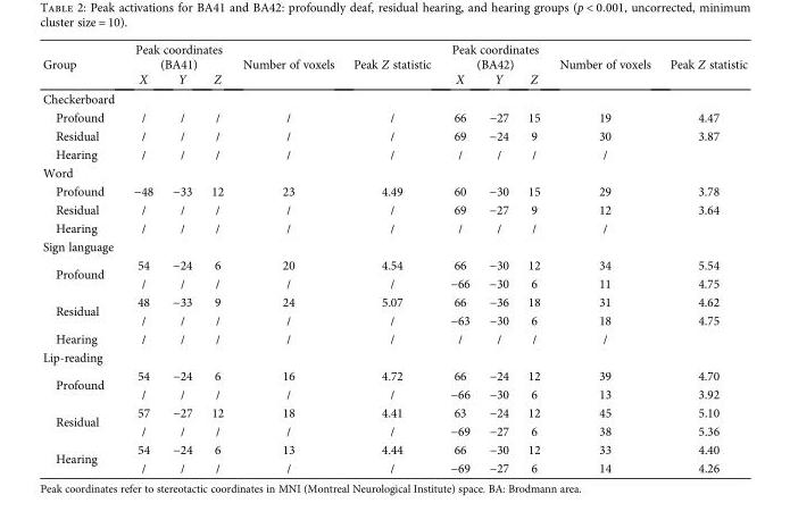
<table><thead><tr><td rowspan="2">Group</td><td colspan="3">Peak coordinates (BA41)</td><td rowspan="2">Number of voxels</td><td rowspan="2">Peak Z statistic</td><td colspan="3">Peak coordinates (BA42)</td><td rowspan="2">Number of voxels</td><td rowspan="2">Peak Z statistic</td></tr><tr><td>X</td><td>Y</td><td>Z</td><td>X</td><td>Y</td><td>Z</td></tr></thead><tbody><tr><td colspan="11">Checkerboard</td></tr><tr><td>Profound</td><td>/</td><td>/</td><td>/</td><td>/</td><td>/</td><td>66</td><td>−27</td><td>15</td><td>19</td><td>4.47</td></tr><tr><td>Residual</td><td>/</td><td>/</td><td>/</td><td>/</td><td>/</td><td>69</td><td>−24</td><td>9</td><td>30</td><td>3.87</td></tr><tr><td>Hearing</td><td>/</td><td>/</td><td>/</td><td>/</td><td>/</td><td>/</td><td>/</td><td>/</td><td>/</td><td></td></tr><tr><td colspan="11">Word</td></tr><tr><td>Profound</td><td>−48</td><td>−33</td><td>12</td><td>23</td><td>4.49</td><td>60</td><td>−30</td><td>15</td><td>29</td><td>3.78</td></tr><tr><td>Residual</td><td>/</td><td>/</td><td>/</td><td>/</td><td>/</td><td>69</td><td>−27</td><td>9</td><td>12</td><td>3.64</td></tr><tr><td>Hearing</td><td>/</td><td>/</td><td>/</td><td>/</td><td>/</td><td>/</td><td>/</td><td>/</td><td>/</td><td></td></tr><tr><td colspan="11">Sign language</td></tr><tr><td rowspan="2">Profound</td><td>54</td><td>−24</td><td>6</td><td>20</td><td>4.54</td><td>66</td><td>−30</td><td>12</td><td>34</td><td>5.54</td></tr><tr><td>/</td><td>/</td><td>/</td><td>/</td><td>/</td><td>−66</td><td>−30</td><td>6</td><td>11</td><td>4.75</td></tr><tr><td rowspan="2">Residual</td><td>48</td><td>−33</td><td>9</td><td>24</td><td>5.07</td><td>66</td><td>−36</td><td>18</td><td>31</td><td>4.62</td></tr><tr><td>/</td><td>/</td><td>/</td><td>/</td><td>/</td><td>−63</td><td>−30</td><td>6</td><td>18</td><td>4.75</td></tr><tr><td>Hearing</td><td>/</td><td>/</td><td>/</td><td>/</td><td>/</td><td>/</td><td>/</td><td>/</td><td>/</td><td></td></tr><tr><td colspan="11">Lip-reading</td></tr><tr><td rowspan="2">Profound</td><td>54</td><td>−24</td><td>6</td><td>16</td><td>4.72</td><td>66</td><td>−24</td><td>12</td><td>39</td><td>4.70</td></tr><tr><td>/</td><td>/</td><td>/</td><td>/</td><td>/</td><td>−66</td><td>−30</td><td>6</td><td>13</td><td>3.92</td></tr><tr><td rowspan="2">Residual</td><td>57</td><td>−27</td><td>12</td><td>18</td><td>4.41</td><td>63</td><td>−24</td><td>12</td><td>45</td><td>5.10</td></tr><tr><td>/</td><td>/</td><td>/</td><td>/</td><td>/</td><td>−69</td><td>−27</td><td>6</td><td>38</td><td>5.36</td></tr><tr><td rowspan="2">Hearing</td><td>54</td><td>−24</td><td>6</td><td>13</td><td>4.44</td><td>66</td><td>−30</td><td>12</td><td>33</td><td>4.40</td></tr><tr><td>/</td><td>/</td><td>/</td><td>/</td><td>/</td><td>−69</td><td>−27</td><td>6</td><td>14</td><td>4.26</td></tr></tbody></table>